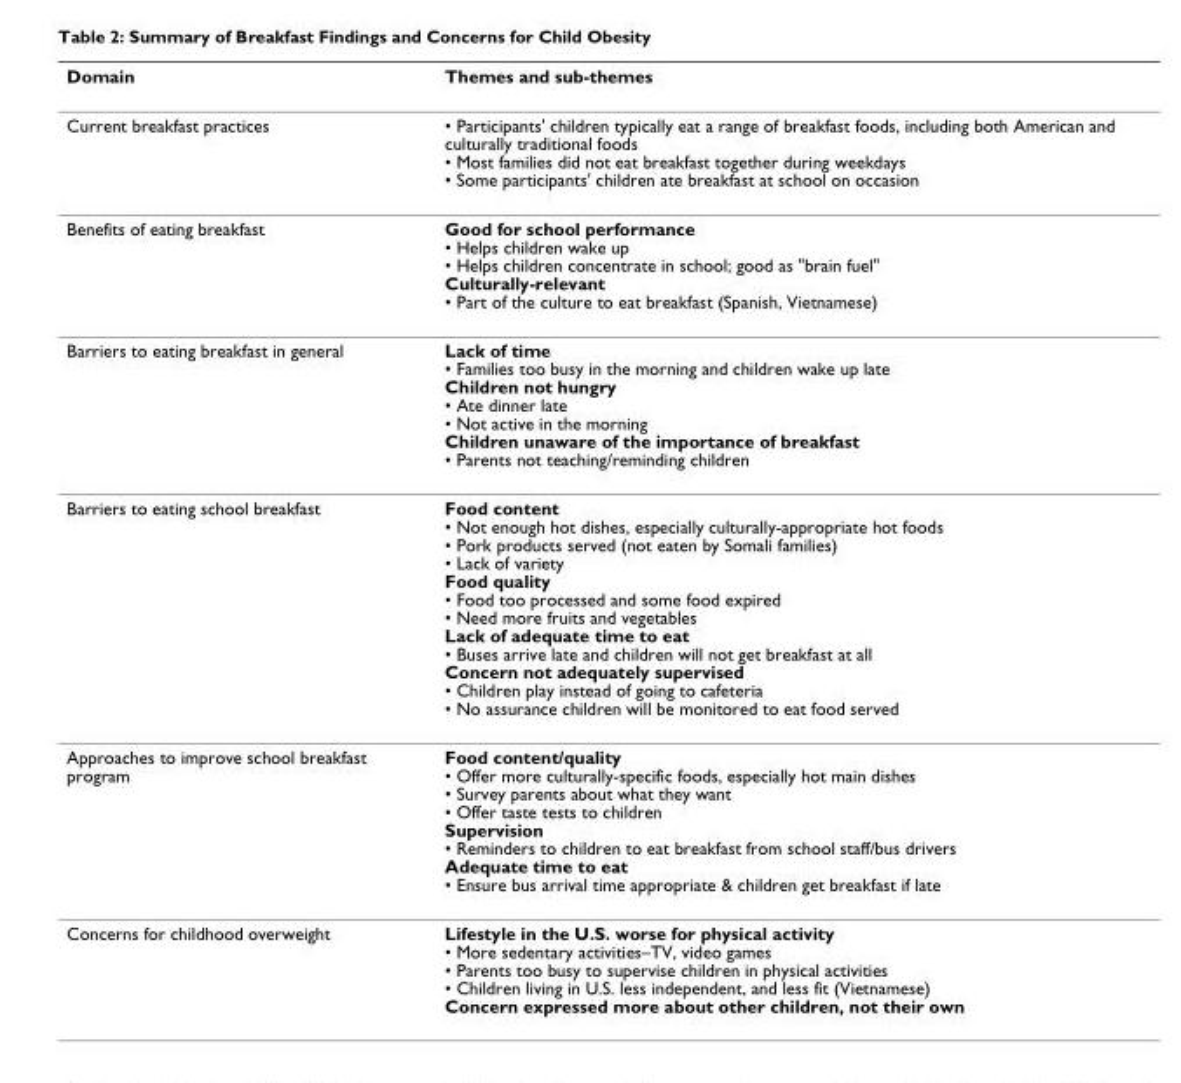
<table><thead><tr><td>Domain</td><td>Themes and sub-themes</td></tr></thead><tbody><tr><td>Current breakfast practices</td><td>• Participants&#x27; children typically eat a range of breakfast foods, including both American and culturally traditional foods • Most families did not eat breakfast together during weekdays • Some participants&#x27; children ate breakfast at school on occasion</td></tr><tr><td>Benefits of eating breakfast</td><td>Good for school performance • Helps children wake up • Helps children concentrate in school; good as &quot;brain fuel&quot; Culturally-relevant • Part of the culture to eat breakfast (Spanish, Vietnamese)</td></tr><tr><td>Barriers to eating breakfast in general</td><td>Lack of time • Families too busy in the morning and children wake up late Children not hungry • Ate dinner late • Not active in the morning Children unaware of the importance of breakfast • Parents not teaching/reminding children</td></tr><tr><td>Barriers to eating school breakfast</td><td>Food content • Not enough hot dishes, especially culturally-appropriate hot foods • Pork products served (not eaten by Somali families) • Lack of variety Food quality • Food too processed and some food expired • Need more fruits and vegetables Lack of adequate time to eat • Buses arrive late and children will not get breakfast at all Concern not adequately supervised • Children play instead of going to cafeteria • No assurance children will be monitored to eat food served</td></tr><tr><td>Approaches to improve school breakfast program</td><td>Food content/quality • Offer more culturally-specific foods, especially hot main dishes • Survey parents about what they want • Offer taste tests to children Supervision • Reminders to children to eat breakfast from school staff/bus drivers Adequate time to eat • Ensure bus arrival time appropriate &amp; children get breakfast if late</td></tr><tr><td>Concerns for childhood overweight</td><td>Lifestyle in the U.S. worse for physical activity • More sedentary activities–TV, video games • Parents too busy to supervise children in physical activities • Children living in U.S. less independent, and less fit (Vietnamese) Concern expressed more about other children, not their own</td></tr></tbody></table>